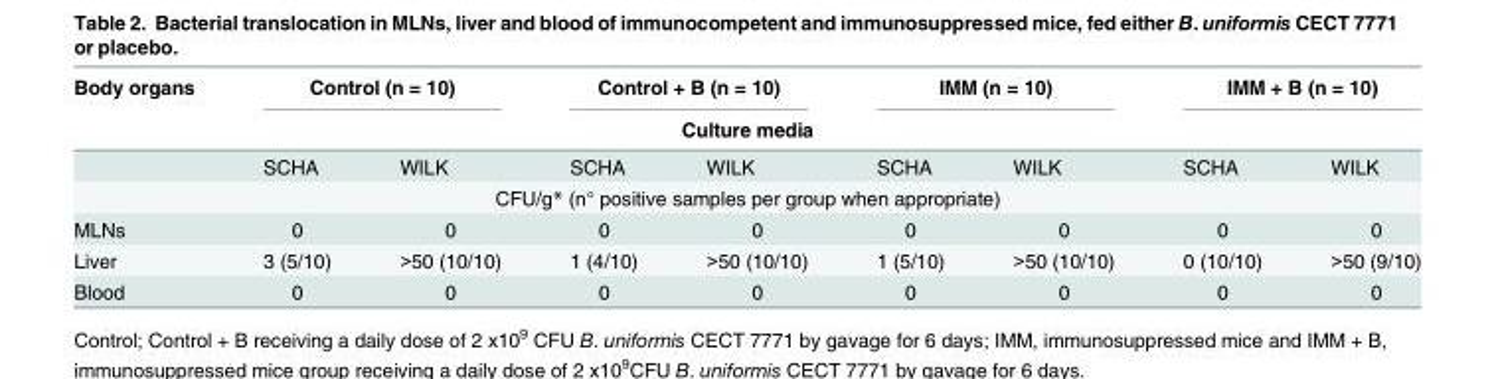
<table><thead><tr><td>Body organs</td><td colspan="2">Control (n = 10)</td><td colspan="2">Control + B (n = 10)</td><td colspan="2">IMM (n = 10)</td><td colspan="2">IMM + B (n = 10)</td></tr><tr><td colspan="9">Culture media</td></tr><tr><td></td><td>SCHA</td><td>WILK</td><td>SCHA</td><td>WILK</td><td>SCHA</td><td>WILK</td><td>SCHA</td><td>WILK</td></tr></thead><tbody><tr><td colspan="9">CFU/g* (n° positive samples per group when appropriate)</td></tr><tr><td>MLNs</td><td>0</td><td>0</td><td>0</td><td>0</td><td>0</td><td>0</td><td>0</td><td>0</td></tr><tr><td>Liver</td><td>3 (5/10)</td><td>&gt;50 (10/10)</td><td>1 (4/10)</td><td>&gt;50 (10/10)</td><td>1 (5/10)</td><td>&gt;50 (10/10)</td><td>0 (10/10)</td><td>&gt;50 (9/10)</td></tr><tr><td>Blood</td><td>0</td><td>0</td><td>0</td><td>0</td><td>0</td><td>0</td><td>0</td><td>0</td></tr></tbody></table>